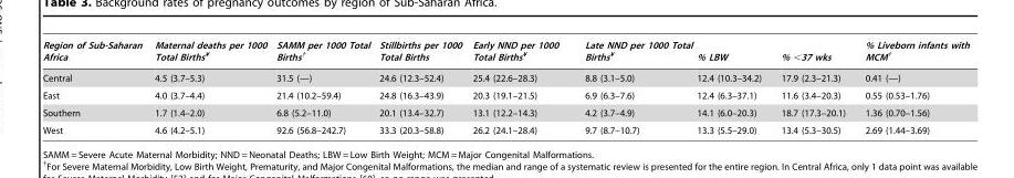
<table><thead><tr><td>Region of Sub-Saharan Africa</td><td>Maternal deaths per 1000 Total Births¥</td><td>SAMM per 1000 Total Births†</td><td>Stillbirths per 1000 Total Births</td><td>Early NND per 1000 Total Births¥</td><td>Late NND per 1000 Total Births¥</td><td>% LBW</td><td>% &lt;37 wks</td><td>% Liveborn infants with MCM†</td></tr></thead><tbody><tr><td>Central</td><td>4.5 (3.7–5.3)</td><td>31.5 (—)</td><td>24.6 (12.3–52.4)</td><td>25.4 (22.6–28.3)</td><td>8.8 (3.1–5.0)</td><td>12.4 (10.3–34.2)</td><td>17.9 (2.3–21.3)</td><td>0.41 (—)</td></tr><tr><td>East</td><td>4.0 (3.7–4.4)</td><td>21.4 (10.2–59.4)</td><td>24.8 (16.3–43.9)</td><td>20.3 (19.1–21.5)</td><td>6.9 (6.3–7.6)</td><td>12.4 (6.3–37.1)</td><td>11.6 (3.4–20.3)</td><td>0.55 (0.53–1.76)</td></tr><tr><td>Southern</td><td>1.7 (1.4–2.0)</td><td>6.8 (5.2–11.0)</td><td>20.1 (13.4–32.7)</td><td>13.1 (12.2–14.3)</td><td>4.2 (3.7–4.9)</td><td>14.1 (6.0–20.3)</td><td>18.7 (17.3–20.1)</td><td>1.36 (0.70–1.56)</td></tr><tr><td>West</td><td>4.6 (4.2–5.1)</td><td>92.6 (56.8–242.7)</td><td>33.3 (20.3–58.8)</td><td>26.2 (24.1–28.4)</td><td>9.7 (8.7–10.7)</td><td>13.3 (5.5–29.0)</td><td>13.4 (5.3–30.5)</td><td>2.69 (1.44–3.69)</td></tr></tbody></table>